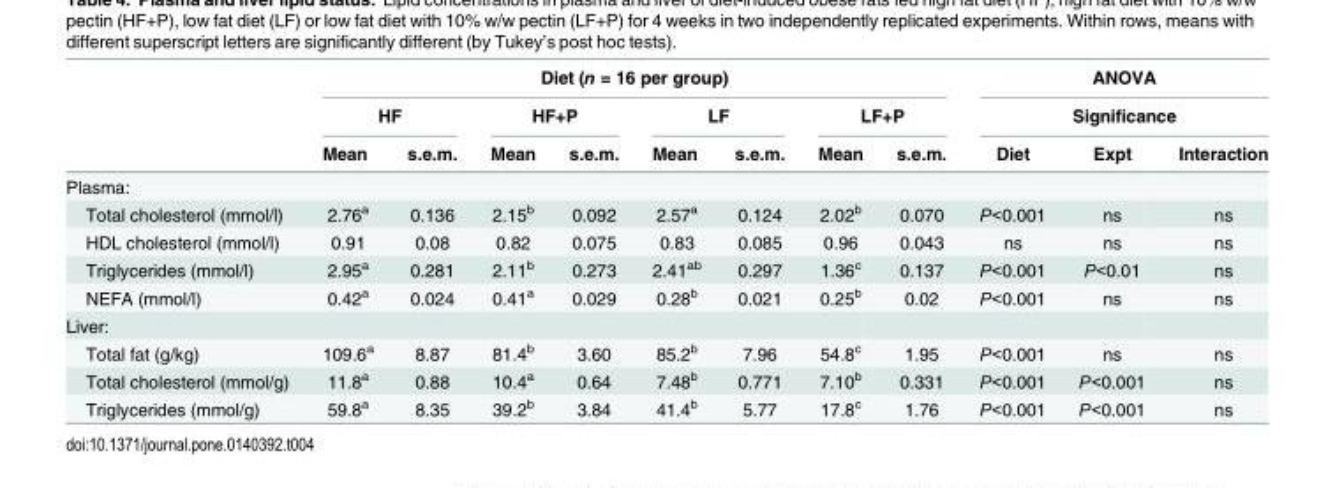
<table><thead><tr><td rowspan="3"></td><td colspan="8">Diet (n = 16 per group)</td><td rowspan="2" colspan="3">ANOVA Significance</td></tr><tr><td colspan="2">HF</td><td colspan="2">HF+P</td><td colspan="2">LF</td><td colspan="2">LF+P</td></tr><tr><td>Mean</td><td>s.e.m.</td><td>Mean</td><td>s.e.m.</td><td>Mean</td><td>s.e.m.</td><td>Mean</td><td>s.e.m.</td><td>Diet</td><td>Expt</td><td>Interaction</td></tr></thead><tbody><tr><td colspan="12">Plasma:</td></tr><tr><td>Total cholesterol (mmol/l)</td><td>2.76<sup>a</sup></td><td>0.136</td><td>2.15<sup>b</sup></td><td>0.092</td><td>2.57<sup>a</sup></td><td>0.124</td><td>2.02<sup>b</sup></td><td>0.070</td><td>P&lt;0.001</td><td>ns</td><td>ns</td></tr><tr><td>HDL cholesterol (mmol/l)</td><td>0.91</td><td>0.08</td><td>0.82</td><td>0.075</td><td>0.83</td><td>0.085</td><td>0.96</td><td>0.043</td><td>ns</td><td>ns</td><td>ns</td></tr><tr><td>Triglycerides (mmol/l)</td><td>2.95<sup>a</sup></td><td>0.281</td><td>2.11<sup>b</sup></td><td>0.273</td><td>2.41<sup>ab</sup></td><td>0.297</td><td>1.36<sup>c</sup></td><td>0.137</td><td>P&lt;0.001</td><td>P&lt;0.01</td><td>ns</td></tr><tr><td>NEFA (mmol/l)</td><td>0.42<sup>a</sup></td><td>0.024</td><td>0.41<sup>a</sup></td><td>0.029</td><td>0.28<sup>b</sup></td><td>0.021</td><td>0.25<sup>b</sup></td><td>0.02</td><td>P&lt;0.001</td><td>ns</td><td>ns</td></tr><tr><td colspan="12">Liver:</td></tr><tr><td>Total fat (g/kg)</td><td>109.6<sup>a</sup></td><td>8.87</td><td>81.4<sup>b</sup></td><td>3.60</td><td>85.2<sup>b</sup></td><td>7.96</td><td>54.8<sup>c</sup></td><td>1.95</td><td>P&lt;0.001</td><td>ns</td><td>ns</td></tr><tr><td>Total cholesterol (mmol/g)</td><td>11.8<sup>a</sup></td><td>0.88</td><td>10.4<sup>a</sup></td><td>0.64</td><td>7.48<sup>b</sup></td><td>0.771</td><td>7.10<sup>b</sup></td><td>0.331</td><td>P&lt;0.001</td><td>P&lt;0.001</td><td>ns</td></tr><tr><td>Triglycerides (mmol/g)</td><td>59.8<sup>a</sup></td><td>8.35</td><td>39.2<sup>b</sup></td><td>3.84</td><td>41.4<sup>b</sup></td><td>5.77</td><td>17.8<sup>c</sup></td><td>1.76</td><td>P&lt;0.001</td><td>P&lt;0.001</td><td>ns</td></tr></tbody></table>